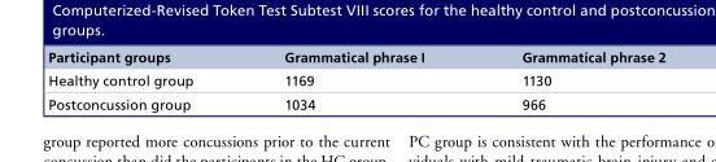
<table><thead><tr><td>Participant groups</td><td>Grammatical phrase I</td><td>Grammatical phrase 2</td></tr></thead><tbody><tr><td>Healthy control group</td><td>1169</td><td>1130</td></tr><tr><td>Postconcussion group</td><td>1034</td><td>966</td></tr></tbody></table>